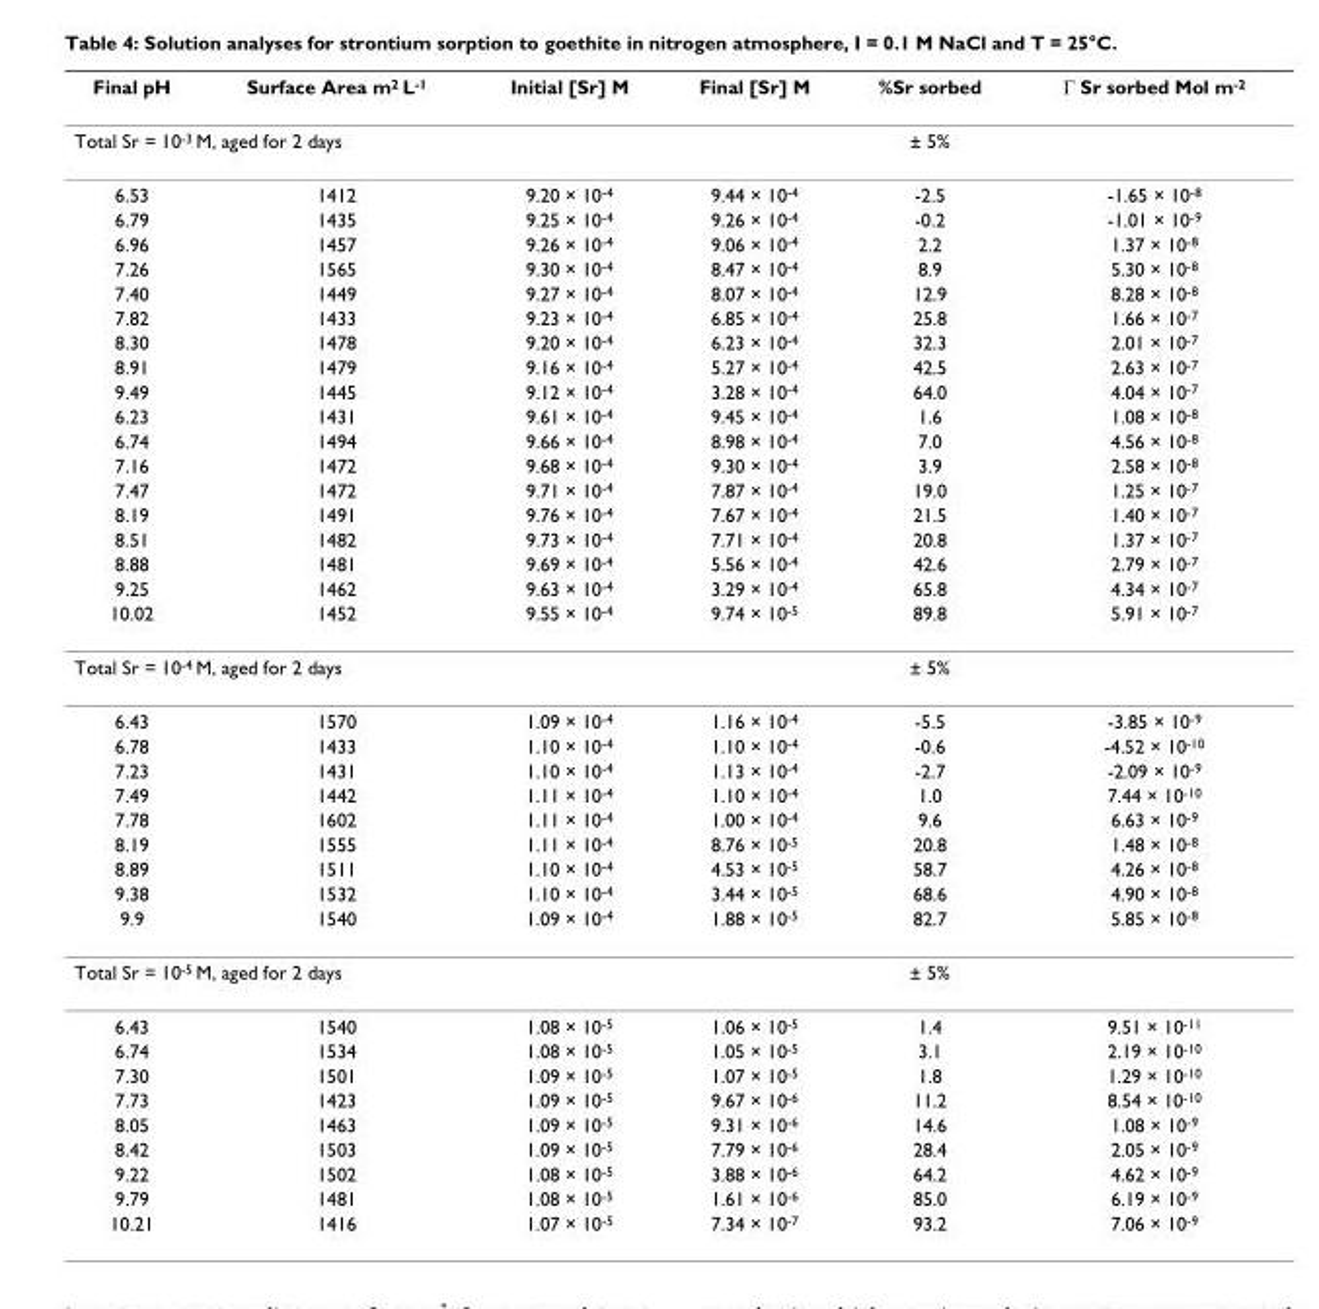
<table><thead><tr><td>Final pH</td><td>Surface Area m2 L-1</td><td>Initial [Sr] M</td><td>Final [Sr] M</td><td>%Sr sorbed</td><td>Γ Sr sorbed Mol m-2</td></tr></thead><tbody><tr><td colspan="3">Total Sr = 10<sup>-3</sup> M, aged for 2 days</td><td></td><td>± 5%</td><td></td></tr><tr><td>6.53</td><td>1412</td><td>9.20 × 10<sup>-4</sup></td><td>9.44 × 10<sup>-4</sup></td><td>-2.5</td><td>-1.65 × 10<sup>-8</sup></td></tr><tr><td>6.79</td><td>1435</td><td>9.25 × 10<sup>-4</sup></td><td>9.26 × 10<sup>-4</sup></td><td>-0.2</td><td>-1.01 × 10<sup>-9</sup></td></tr><tr><td>6.96</td><td>1457</td><td>9.26 × 10<sup>-4</sup></td><td>9.06 × 10<sup>-4</sup></td><td>2.2</td><td>1.37 × 10<sup>-8</sup></td></tr><tr><td>7.26</td><td>1565</td><td>9.30 × 10<sup>-4</sup></td><td>8.47 × 10<sup>-4</sup></td><td>8.9</td><td>5.30 × 10<sup>-8</sup></td></tr><tr><td>7.40</td><td>1449</td><td>9.27 × 10<sup>-4</sup></td><td>8.07 × 10<sup>-4</sup></td><td>12.9</td><td>8.28 × 10<sup>-8</sup></td></tr><tr><td>7.82</td><td>1433</td><td>9.23 × 10<sup>-4</sup></td><td>6.85 × 10<sup>-4</sup></td><td>25.8</td><td>1.66 × 10<sup>-7</sup></td></tr><tr><td>8.30</td><td>1478</td><td>9.20 × 10<sup>-4</sup></td><td>6.23 × 10<sup>-4</sup></td><td>32.3</td><td>2.01 × 10<sup>-7</sup></td></tr><tr><td>8.91</td><td>1479</td><td>9.16 × 10<sup>-4</sup></td><td>5.27 × 10<sup>-4</sup></td><td>42.5</td><td>2.63 × 10<sup>-7</sup></td></tr><tr><td>9.49</td><td>1445</td><td>9.12 × 10<sup>-4</sup></td><td>3.28 × 10<sup>-4</sup></td><td>64.0</td><td>4.04 × 10<sup>-7</sup></td></tr><tr><td>6.23</td><td>1431</td><td>9.61 × 10<sup>-4</sup></td><td>9.45 × 10<sup>-4</sup></td><td>1.6</td><td>1.08 × 10<sup>-8</sup></td></tr><tr><td>6.74</td><td>1494</td><td>9.66 × 10<sup>-4</sup></td><td>8.98 × 10<sup>-4</sup></td><td>7.0</td><td>4.56 × 10<sup>-8</sup></td></tr><tr><td>7.16</td><td>1472</td><td>9.68 × 10<sup>-4</sup></td><td>9.30 × 10<sup>-4</sup></td><td>3.9</td><td>2.58 × 10<sup>-8</sup></td></tr><tr><td>7.47</td><td>1472</td><td>9.71 × 10<sup>-4</sup></td><td>7.87 × 10<sup>-4</sup></td><td>19.0</td><td>1.25 × 10<sup>-7</sup></td></tr><tr><td>8.19</td><td>1491</td><td>9.76 × 10<sup>-4</sup></td><td>7.67 × 10<sup>-4</sup></td><td>21.5</td><td>1.40 × 10<sup>-7</sup></td></tr><tr><td>8.51</td><td>1482</td><td>9.73 × 10<sup>-4</sup></td><td>7.71 × 10<sup>-4</sup></td><td>20.8</td><td>1.37 × 10<sup>-7</sup></td></tr><tr><td>8.88</td><td>1481</td><td>9.69 × 10<sup>-4</sup></td><td>5.56 × 10<sup>-4</sup></td><td>42.6</td><td>2.79 × 10<sup>-7</sup></td></tr><tr><td>9.25</td><td>1462</td><td>9.63 × 10<sup>-4</sup></td><td>3.29 × 10<sup>-4</sup></td><td>65.8</td><td>4.34 × 10<sup>-7</sup></td></tr><tr><td>10.02</td><td>1452</td><td>9.55 × 10<sup>-4</sup></td><td>9.74 × 10<sup>-5</sup></td><td>89.8</td><td>5.91 × 10<sup>-7</sup></td></tr><tr><td colspan="3">Total Sr = 10<sup>-4</sup> M, aged for 2 days</td><td></td><td>± 5%</td><td></td></tr><tr><td>6.43</td><td>1570</td><td>1.09 × 10<sup>-4</sup></td><td>1.16 × 10<sup>-4</sup></td><td>-5.5</td><td>-3.85 × 10<sup>-9</sup></td></tr><tr><td>6.78</td><td>1433</td><td>1.10 × 10<sup>-4</sup></td><td>1.10 × 10<sup>-4</sup></td><td>-0.6</td><td>-4.52 × 10<sup>-10</sup></td></tr><tr><td>7.23</td><td>1431</td><td>1.10 × 10<sup>-4</sup></td><td>1.13 × 10<sup>-4</sup></td><td>-2.7</td><td>-2.09 × 10<sup>-9</sup></td></tr><tr><td>7.49</td><td>1442</td><td>1.11 × 10<sup>-4</sup></td><td>1.10 × 10<sup>-4</sup></td><td>1.0</td><td>7.44 × 10<sup>-10</sup></td></tr><tr><td>7.78</td><td>1602</td><td>1.11 × 10<sup>-4</sup></td><td>1.00 × 10<sup>-4</sup></td><td>9.6</td><td>6.63 × 10<sup>-9</sup></td></tr><tr><td>8.19</td><td>1555</td><td>1.11 × 10<sup>-4</sup></td><td>8.76 × 10<sup>-5</sup></td><td>20.8</td><td>1.48 × 10<sup>-8</sup></td></tr><tr><td>8.89</td><td>1511</td><td>1.10 × 10<sup>-4</sup></td><td>4.53 × 10<sup>-5</sup></td><td>58.7</td><td>4.26 × 10<sup>-8</sup></td></tr><tr><td>9.38</td><td>1532</td><td>1.10 × 10<sup>-4</sup></td><td>3.44 × 10<sup>-5</sup></td><td>68.6</td><td>4.90 × 10<sup>-8</sup></td></tr><tr><td>9.9</td><td>1540</td><td>1.09 × 10<sup>-4</sup></td><td>1.88 × 10<sup>-5</sup></td><td>82.7</td><td>5.85 × 10<sup>-8</sup></td></tr><tr><td colspan="3">Total Sr = 10<sup>-5</sup> M, aged for 2 days</td><td></td><td>± 5%</td><td></td></tr><tr><td>6.43</td><td>1540</td><td>1.08 × 10<sup>-5</sup></td><td>1.06 × 10<sup>-5</sup></td><td>1.4</td><td>9.51 × 10<sup>-11</sup></td></tr><tr><td>6.74</td><td>1534</td><td>1.08 × 10<sup>-5</sup></td><td>1.05 × 10<sup>-5</sup></td><td>3.1</td><td>2.19 × 10<sup>-10</sup></td></tr><tr><td>7.30</td><td>1501</td><td>1.09 × 10<sup>-5</sup></td><td>1.07 × 10<sup>-5</sup></td><td>1.8</td><td>1.29 × 10<sup>-10</sup></td></tr><tr><td>7.73</td><td>1423</td><td>1.09 × 10<sup>-5</sup></td><td>9.67 × 10<sup>-6</sup></td><td>11.2</td><td>8.54 × 10<sup>-10</sup></td></tr><tr><td>8.05</td><td>1463</td><td>1.09 × 10<sup>-5</sup></td><td>9.31 × 10<sup>-6</sup></td><td>14.6</td><td>1.08 × 10<sup>-9</sup></td></tr><tr><td>8.42</td><td>1503</td><td>1.09 × 10<sup>-5</sup></td><td>7.79 × 10<sup>-6</sup></td><td>28.4</td><td>2.05 × 10<sup>-9</sup></td></tr><tr><td>9.22</td><td>1502</td><td>1.08 × 10<sup>-5</sup></td><td>3.88 × 10<sup>-6</sup></td><td>64.2</td><td>4.62 × 10<sup>-9</sup></td></tr><tr><td>9.79</td><td>1481</td><td>1.08 × 10<sup>-5</sup></td><td>1.61 × 10<sup>-6</sup></td><td>85.0</td><td>6.19 × 10<sup>-9</sup></td></tr><tr><td>10.21</td><td>1416</td><td>1.07 × 10<sup>-5</sup></td><td>7.34 × 10<sup>-7</sup></td><td>93.2</td><td>7.06 × 10<sup>-9</sup></td></tr></tbody></table>